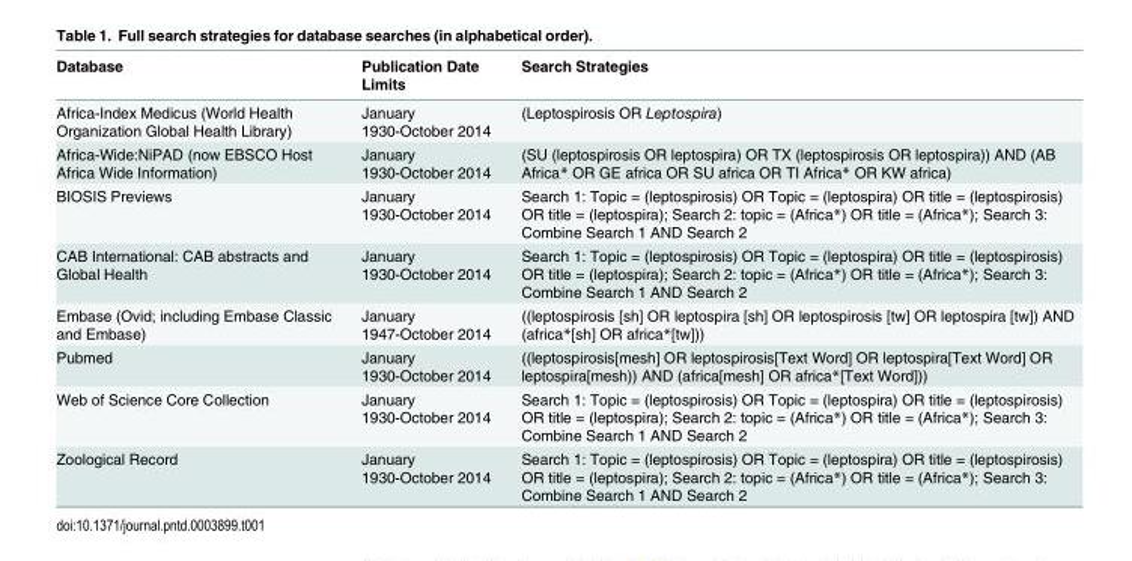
<table><thead><tr><td>Database</td><td>Publication Date Limits</td><td>Search Strategies</td></tr></thead><tbody><tr><td>Africa-Index Medicus (World Health Organization Global Health Library)</td><td>January 1930-October 2014</td><td>(Leptospirosis OR Leptospira)</td></tr><tr><td>Africa-Wide:NiPAD (now EBSCO Host Africa Wide Information)</td><td>January 1930-October 2014</td><td>(SU (leptospirosis OR leptospira) OR TX (leptospirosis OR leptospira)) AND (AB Africa* OR GE africa OR SU africa OR TI Africa* OR KW africa)</td></tr><tr><td>BIOSIS Previews</td><td>January 1930-October 2014</td><td>Search 1: Topic = (leptospirosis) OR Topic = (leptospira) OR title = (leptospirosis) OR title = (leptospira); Search 2: topic = (Africa*) OR title = (Africa*); Search 3: Combine Search 1 AND Search 2</td></tr><tr><td>CAB International: CAB abstracts and Global Health</td><td>January 1930-October 2014</td><td>Search 1: Topic = (leptospirosis) OR Topic = (leptospira) OR title = (leptospirosis) OR title = (leptospira); Search 2: topic = (Africa*) OR title = (Africa*); Search 3: Combine Search 1 AND Search 2</td></tr><tr><td>Embase (Ovid; including Embase Classic and Embase)</td><td>January 1947-October 2014</td><td>((leptospirosis [sh] OR leptospira [sh] OR leptospirosis [tw] OR leptospira [tw]) AND (africa*[sh] OR africa*[tw]))</td></tr><tr><td>Pubmed</td><td>January 1930-October 2014</td><td>((leptospirosis[mesh] OR leptospirosis[Text Word] OR leptospira[Text Word] OR leptospira[mesh)) AND (africa[mesh] OR africa*[Text Word]))</td></tr><tr><td>Web of Science Core Collection</td><td>January 1930-October 2014</td><td>Search 1: Topic = (leptospirosis) OR Topic = (leptospira) OR title = (leptospirosis) OR title = (leptospira); Search 2: topic = (Africa*) OR title = (Africa*); Search 3: Combine Search 1 AND Search 2</td></tr><tr><td>Zoological Record</td><td>January 1930-October 2014</td><td>Search 1: Topic = (leptospirosis) OR Topic = (leptospira) OR title = (leptospirosis) OR title = (leptospira); Search 2: topic = (Africa*) OR title = (Africa*); Search 3: Combine Search 1 AND Search 2</td></tr></tbody></table>